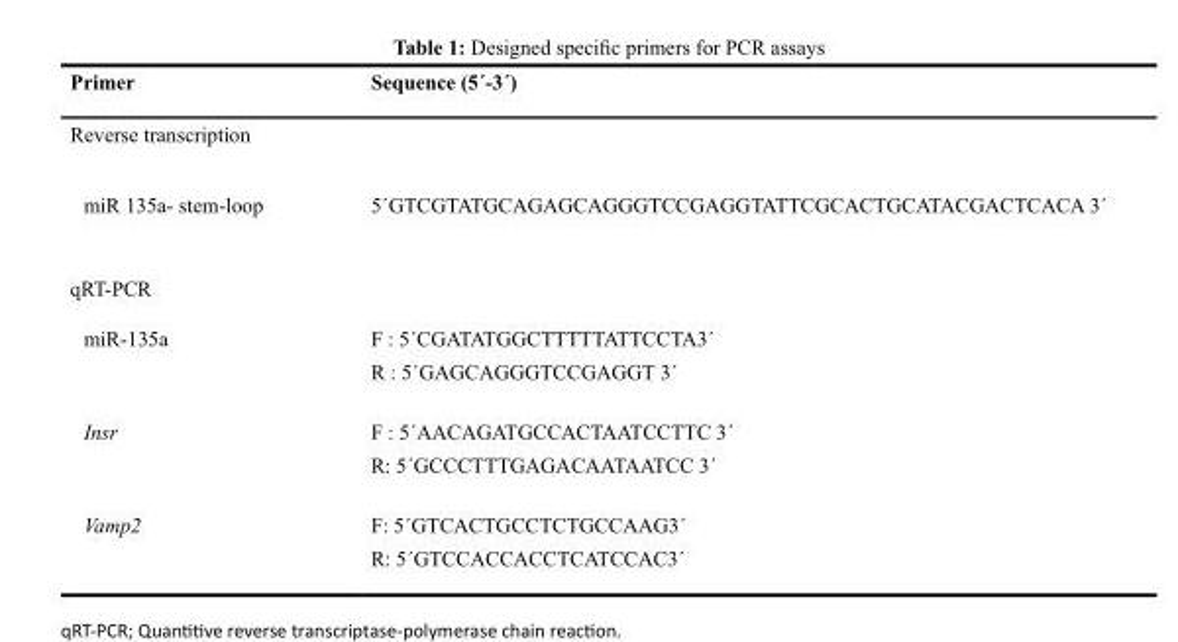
<table><thead><tr><td>Primer</td><td>Sequence (5´-3´)</td></tr></thead><tbody><tr><td colspan="2">Reverse transcription</td></tr><tr><td>miR 135a- stem-loop</td><td>5ˊGTCGTATGCAGAGCAGGGTCCGAGGTATTCGCACTGCATACGACTCACA 3ˊ</td></tr><tr><td colspan="2">qRT-PCR</td></tr><tr><td rowspan="2">miR-135a</td><td>F : 5ˊCGATATGGCTTTTTATTCCTA3ˊ</td></tr><tr><td>R : 5ˊGAGCAGGGTCCGAGGT 3ˊ</td></tr><tr><td rowspan="2">Insr</td><td>F : 5ˊAACAGATGCCACTAATCCTTC 3ˊ</td></tr><tr><td>R: 5ˊGCCCTTTGAGACAATAATCC 3ˊ</td></tr><tr><td rowspan="2">Vamp2</td><td>F: 5ˊGTCACTGCCTCTGCCAAG3ˊ</td></tr><tr><td>R: 5ˊGTCCACCACCTCATCCAC3ˊ</td></tr></tbody></table>